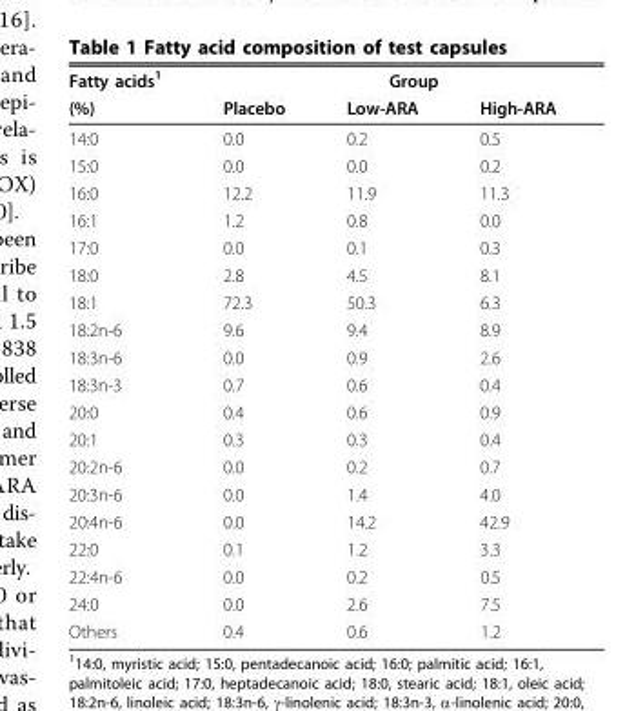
<table><tbody><tr><td>Fatty acids<sup>1</sup></td><td colspan="3">Group</td></tr><tr><td>(%)</td><td>Placebo</td><td>Low-ARA</td><td>High-ARA</td></tr><tr><td>14:0</td><td>0.0</td><td>0.2</td><td>0.5</td></tr><tr><td>15:0</td><td>0.0</td><td>0.0</td><td>0.2</td></tr><tr><td>16:0</td><td>12.2</td><td>11.9</td><td>11.3</td></tr><tr><td>16:1</td><td>1.2</td><td>0.8</td><td>0.0</td></tr><tr><td>17:0</td><td>0.0</td><td>0.1</td><td>0.3</td></tr><tr><td>18:0</td><td>2.8</td><td>4.5</td><td>8.1</td></tr><tr><td>18:1</td><td>72.3</td><td>50.3</td><td>6.3</td></tr><tr><td>18:2n-6</td><td>9.6</td><td>9.4</td><td>8.9</td></tr><tr><td>18:3n-6</td><td>0.0</td><td>0.9</td><td>2.6</td></tr><tr><td>18:3n-3</td><td>0.7</td><td>0.6</td><td>0.4</td></tr><tr><td>20:0</td><td>0.4</td><td>0.6</td><td>0.9</td></tr><tr><td>20:1</td><td>0.3</td><td>0.3</td><td>0.4</td></tr><tr><td>20:2n-6</td><td>0.0</td><td>0.2</td><td>0.7</td></tr><tr><td>20:3n-6</td><td>0.0</td><td>1.4</td><td>4.0</td></tr><tr><td>20:4n-6</td><td>0.0</td><td>14.2</td><td>42.9</td></tr><tr><td>22:0</td><td>0.1</td><td>1.2</td><td>3.3</td></tr><tr><td>22:4n-6</td><td>0.0</td><td>0.2</td><td>0.5</td></tr><tr><td>24:0</td><td>0.0</td><td>2.6</td><td>7.5</td></tr><tr><td>Others</td><td>0.4</td><td>0.6</td><td>1.2</td></tr></tbody></table>